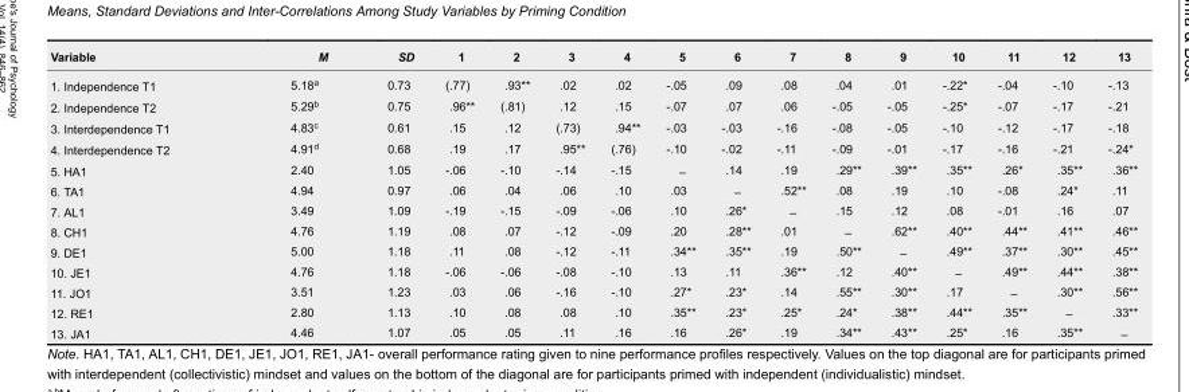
<table><thead><tr><td>Variable</td><td>M</td><td>SD</td><td>1</td><td>2</td><td>3</td><td>4</td><td>5</td><td>6</td><td>7</td><td>8</td><td>9</td><td>10</td><td>11</td><td>12</td><td>13</td></tr></thead><tbody><tr><td>1. Independence T1</td><td>5.18<sup>a</sup></td><td>0.73</td><td>(.77)</td><td>.93**</td><td>.02</td><td>.02</td><td>-.05</td><td>.09</td><td>.08</td><td>.04</td><td>.01</td><td>-.22*</td><td>-.04</td><td>-.10</td><td>-.13</td></tr><tr><td>2. Independence T2</td><td>5.29<sup>b</sup></td><td>0.75</td><td>.96**</td><td>(.81)</td><td>.12</td><td>.15</td><td>-.07</td><td>.07</td><td>.06</td><td>-.05</td><td>-.05</td><td>-.25*</td><td>-.07</td><td>-.17</td><td>-.21</td></tr><tr><td>3. Interdependence T1</td><td>4.83<sup>c</sup></td><td>0.61</td><td>.15</td><td>.12</td><td>(.73)</td><td>.94**</td><td>-.03</td><td>-.03</td><td>-.16</td><td>-.08</td><td>-.05</td><td>-.10</td><td>-.12</td><td>-.17</td><td>-.18</td></tr><tr><td>4. Interdependence T2</td><td>4.91<sup>d</sup></td><td>0.68</td><td>.19</td><td>.17</td><td>.95**</td><td>(.76)</td><td>-.10</td><td>-.02</td><td>-.11</td><td>-.09</td><td>-.01</td><td>-.17</td><td>-.16</td><td>-.21</td><td>-.24*</td></tr><tr><td>5. HA1</td><td>2.40</td><td>1.05</td><td>-.06</td><td>-.10</td><td>-.14</td><td>-.15</td><td>–</td><td>.14</td><td>.19</td><td>.29**</td><td>.39**</td><td>.35**</td><td>.26*</td><td>.35**</td><td>.36**</td></tr><tr><td>6. TA1</td><td>4.94</td><td>0.97</td><td>.06</td><td>.04</td><td>.06</td><td>.10</td><td>.03</td><td>–</td><td>.52**</td><td>.08</td><td>.19</td><td>.10</td><td>-.08</td><td>.24*</td><td>.11</td></tr><tr><td>7. AL1</td><td>3.49</td><td>1.09</td><td>-.19</td><td>-.15</td><td>-.09</td><td>-.06</td><td>.10</td><td>.26*</td><td>–</td><td>.15</td><td>.12</td><td>.08</td><td>-.01</td><td>.16</td><td>.07</td></tr><tr><td>8. CH1</td><td>4.76</td><td>1.19</td><td>.08</td><td>.07</td><td>-.12</td><td>-.09</td><td>.20</td><td>.28**</td><td>.01</td><td>–</td><td>.62**</td><td>.40**</td><td>.44**</td><td>.41**</td><td>.46**</td></tr><tr><td>9. DE1</td><td>5.00</td><td>1.18</td><td>.11</td><td>.08</td><td>-.12</td><td>-.11</td><td>.34**</td><td>.35**</td><td>.19</td><td>.50**</td><td>–</td><td>.49**</td><td>.37**</td><td>.30**</td><td>.45**</td></tr><tr><td>10. JE1</td><td>4.76</td><td>1.18</td><td>-.06</td><td>-.06</td><td>-.08</td><td>-.10</td><td>.13</td><td>.11</td><td>.36**</td><td>.12</td><td>.40**</td><td>–</td><td>.49**</td><td>.44**</td><td>.38**</td></tr><tr><td>11. JO1</td><td>3.51</td><td>1.23</td><td>.03</td><td>.06</td><td>-.16</td><td>-.10</td><td>.27*</td><td>.23*</td><td>.14</td><td>.55**</td><td>.30**</td><td>.17</td><td>–</td><td>.30**</td><td>.56**</td></tr><tr><td>12. RE1</td><td>2.80</td><td>1.13</td><td>.10</td><td>.08</td><td>.08</td><td>.10</td><td>.35**</td><td>.23*</td><td>.25*</td><td>.24*</td><td>.38**</td><td>.44**</td><td>.35**</td><td>–</td><td>.33**</td></tr><tr><td>13. JA1</td><td>4.46</td><td>1.07</td><td>.05</td><td>.05</td><td>.11</td><td>.16</td><td>.16</td><td>.26*</td><td>.19</td><td>.34**</td><td>.43**</td><td>.25*</td><td>.16</td><td>.35**</td><td>–</td></tr></tbody></table>